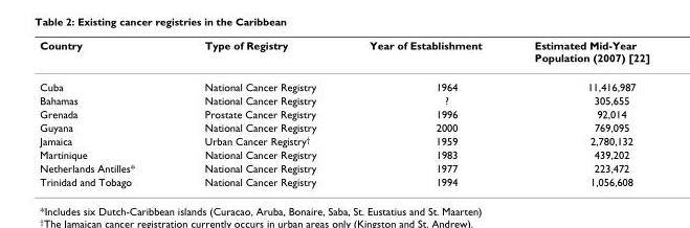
<table><thead><tr><td>Country</td><td>Type of Registry</td><td>Year of Establishment</td><td>Estimated Mid-Year Population (2007) [22]</td></tr></thead><tbody><tr><td>Cuba</td><td>National Cancer Registry</td><td>1964</td><td>11,416,987</td></tr><tr><td>Bahamas</td><td>National Cancer Registry</td><td>?</td><td>305,655</td></tr><tr><td>Grenada</td><td>Prostate Cancer Registry</td><td>1996</td><td>92,014</td></tr><tr><td>Guyana</td><td>National Cancer Registry</td><td>2000</td><td>769,095</td></tr><tr><td>Jamaica</td><td>Urban Cancer Registry<sup>†</sup></td><td>1959</td><td>2,780,132</td></tr><tr><td>Martinique</td><td>National Cancer Registry</td><td>1983</td><td>439,202</td></tr><tr><td>Netherlands Antilles*</td><td>National Cancer Registry</td><td>1977</td><td>223,472</td></tr><tr><td>Trinidad and Tobago</td><td>National Cancer Registry</td><td>1994</td><td>1,056,608</td></tr></tbody></table>